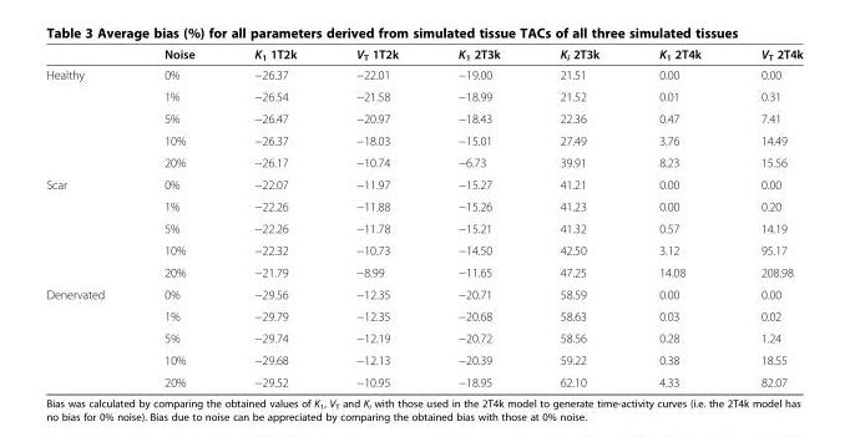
<table><thead><tr><td></td><td>Noise</td><td>K<sub>1</sub> 1T2k</td><td>V<sub>T</sub> 1T2k</td><td>K<sub>1</sub> 2T3k</td><td>K<sub>i</sub> 2T3k</td><td>K<sub>1</sub> 2T4k</td><td>V<sub>T</sub> 2T4k</td></tr></thead><tbody><tr><td rowspan="5">Healthy</td><td>0%</td><td>−26.37</td><td>−22.01</td><td>−19.00</td><td>21.51</td><td>0.00</td><td>0.00</td></tr><tr><td>1%</td><td>−26.54</td><td>−21.58</td><td>−18.99</td><td>21.52</td><td>0.01</td><td>0.31</td></tr><tr><td>5%</td><td>−26.47</td><td>−20.97</td><td>−18.43</td><td>22.36</td><td>0.47</td><td>7.41</td></tr><tr><td>10%</td><td>−26.37</td><td>−18.03</td><td>−15.01</td><td>27.49</td><td>3.76</td><td>14.49</td></tr><tr><td>20%</td><td>−26.17</td><td>−10.74</td><td>−6.73</td><td>39.91</td><td>8.23</td><td>15.56</td></tr><tr><td rowspan="5">Scar</td><td>0%</td><td>−22.07</td><td>−11.97</td><td>−15.27</td><td>41.21</td><td>0.00</td><td>0.00</td></tr><tr><td>1%</td><td>−22.26</td><td>−11.88</td><td>−15.26</td><td>41.23</td><td>0.00</td><td>0.20</td></tr><tr><td>5%</td><td>−22.26</td><td>−11.78</td><td>−15.21</td><td>41.32</td><td>0.57</td><td>14.19</td></tr><tr><td>10%</td><td>−22.32</td><td>−10.73</td><td>−14.50</td><td>42.50</td><td>3.12</td><td>95.17</td></tr><tr><td>20%</td><td>−21.79</td><td>−8.99</td><td>−11.65</td><td>47.25</td><td>14.08</td><td>208.98</td></tr><tr><td rowspan="5">Denervated</td><td>0%</td><td>−29.56</td><td>−12.35</td><td>−20.71</td><td>58.59</td><td>0.00</td><td>0.00</td></tr><tr><td>1%</td><td>−29.79</td><td>−12.35</td><td>−20.68</td><td>58.63</td><td>0.03</td><td>0.02</td></tr><tr><td>5%</td><td>−29.74</td><td>−12.19</td><td>−20.72</td><td>58.56</td><td>0.28</td><td>1.24</td></tr><tr><td>10%</td><td>−29.68</td><td>−12.13</td><td>−20.39</td><td>59.22</td><td>0.38</td><td>18.55</td></tr><tr><td>20%</td><td>−29.52</td><td>−10.95</td><td>−18.95</td><td>62.10</td><td>4.33</td><td>82.07</td></tr></tbody></table>